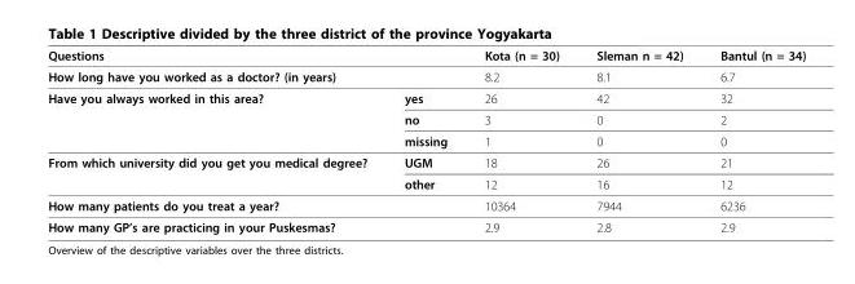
<table><thead><tr><td>Questions</td><td></td><td>Kota (n = 30)</td><td>Sleman n = 42)</td><td>Bantul (n = 34)</td></tr></thead><tbody><tr><td>How long have you worked as a doctor? (in years)</td><td></td><td>8.2</td><td>8.1</td><td>6.7</td></tr><tr><td rowspan="3">Have you always worked in this area?</td><td>yes</td><td>26</td><td>42</td><td>32</td></tr><tr><td>no</td><td>3</td><td>0</td><td>2</td></tr><tr><td>missing</td><td>1</td><td>0</td><td>0</td></tr><tr><td rowspan="2">From which university did you get you medical degree?</td><td>UGM</td><td>18</td><td>26</td><td>21</td></tr><tr><td>other</td><td>12</td><td>16</td><td>12</td></tr><tr><td>How many patients do you treat a year?</td><td></td><td>10364</td><td>7944</td><td>6236</td></tr><tr><td>How many GP’s are practicing in your Puskesmas?</td><td></td><td>2.9</td><td>2.8</td><td>2.9</td></tr></tbody></table>